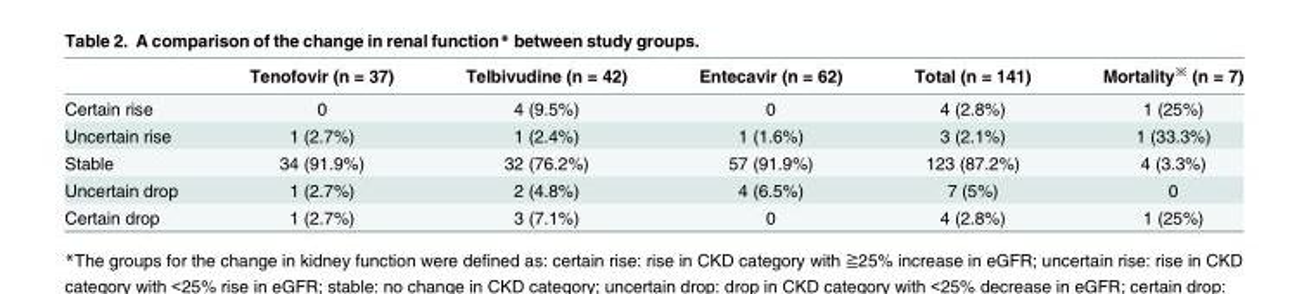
<table><thead><tr><td></td><td>Tenofovir (n = 37)</td><td>Telbivudine (n = 42)</td><td>Entecavir (n = 62)</td><td>Total (n = 141)</td><td>Mortality<sup>※</sup> (n = 7)</td></tr></thead><tbody><tr><td>Certain rise</td><td>0</td><td>4 (9.5%)</td><td>0</td><td>4 (2.8%)</td><td>1 (25%)</td></tr><tr><td>Uncertain rise</td><td>1 (2.7%)</td><td>1 (2.4%)</td><td>1 (1.6%)</td><td>3 (2.1%)</td><td>1 (33.3%)</td></tr><tr><td>Stable</td><td>34 (91.9%)</td><td>32 (76.2%)</td><td>57 (91.9%)</td><td>123 (87.2%)</td><td>4 (3.3%)</td></tr><tr><td>Uncertain drop</td><td>1 (2.7%)</td><td>2 (4.8%)</td><td>4 (6.5%)</td><td>7 (5%)</td><td>0</td></tr><tr><td>Certain drop</td><td>1 (2.7%)</td><td>3 (7.1%)</td><td>0</td><td>4 (2.8%)</td><td>1 (25%)</td></tr></tbody></table>